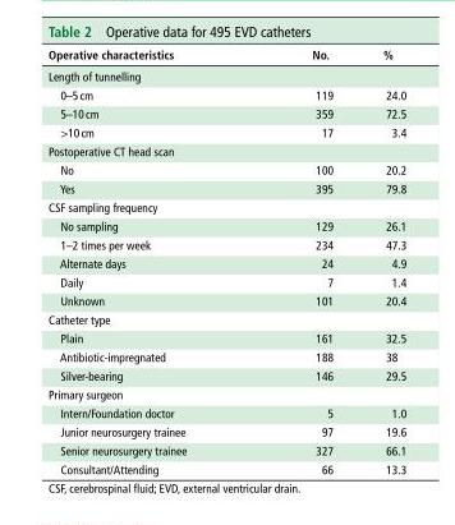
<table><thead><tr><td>Operative characteristics</td><td>No.</td><td>%</td></tr></thead><tbody><tr><td colspan="3">Length of tunnelling</td></tr><tr><td>0–5 cm</td><td>119</td><td>24.0</td></tr><tr><td>5–10 cm</td><td>359</td><td>72.5</td></tr><tr><td>&gt;10 cm</td><td>17</td><td>3.4</td></tr><tr><td colspan="3">Postoperative CT head scan</td></tr><tr><td>No</td><td>100</td><td>20.2</td></tr><tr><td>Yes</td><td>395</td><td>79.8</td></tr><tr><td colspan="3">CSF sampling frequency</td></tr><tr><td>No sampling</td><td>129</td><td>26.1</td></tr><tr><td>1–2 times per week</td><td>234</td><td>47.3</td></tr><tr><td>Alternate days</td><td>24</td><td>4.9</td></tr><tr><td>Daily</td><td>7</td><td>1.4</td></tr><tr><td>Unknown</td><td>101</td><td>20.4</td></tr><tr><td colspan="3">Catheter type</td></tr><tr><td>Plain</td><td>161</td><td>32.5</td></tr><tr><td>Antibiotic-impregnated</td><td>188</td><td>38</td></tr><tr><td>Silver-bearing</td><td>146</td><td>29.5</td></tr><tr><td colspan="3">Primary surgeon</td></tr><tr><td>Intern/Foundation doctor</td><td>5</td><td>1.0</td></tr><tr><td>Junior neurosurgery trainee</td><td>97</td><td>19.6</td></tr><tr><td>Senior neurosurgery trainee</td><td>327</td><td>66.1</td></tr><tr><td>Consultant/Attending</td><td>66</td><td>13.3</td></tr></tbody></table>